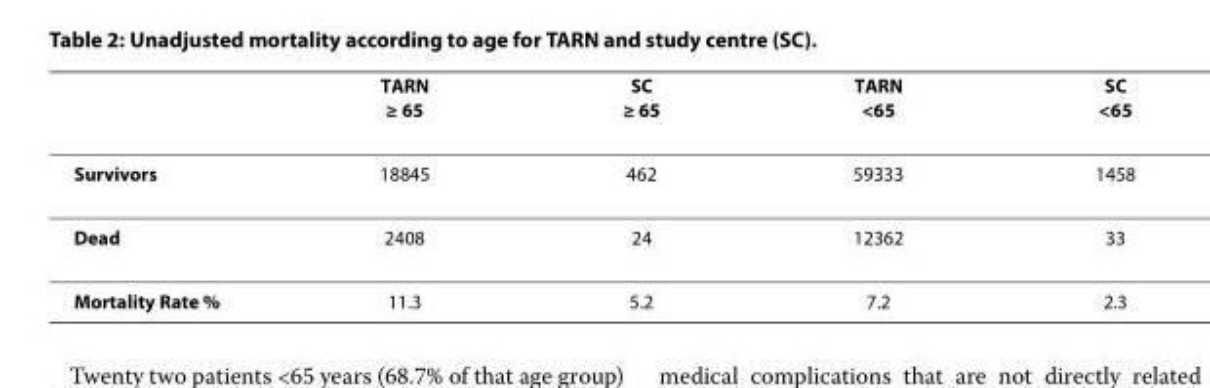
<table><thead><tr><td></td><td>TARN ≥ 65</td><td>SC ≥ 65</td><td>TARN &lt;65</td><td>SC &lt;65</td></tr></thead><tbody><tr><td>Survivors</td><td>18845</td><td>462</td><td>59333</td><td>1458</td></tr><tr><td>Dead</td><td>2408</td><td>24</td><td>12362</td><td>33</td></tr><tr><td>Mortality Rate %</td><td>11.3</td><td>5.2</td><td>7.2</td><td>2.3</td></tr></tbody></table>